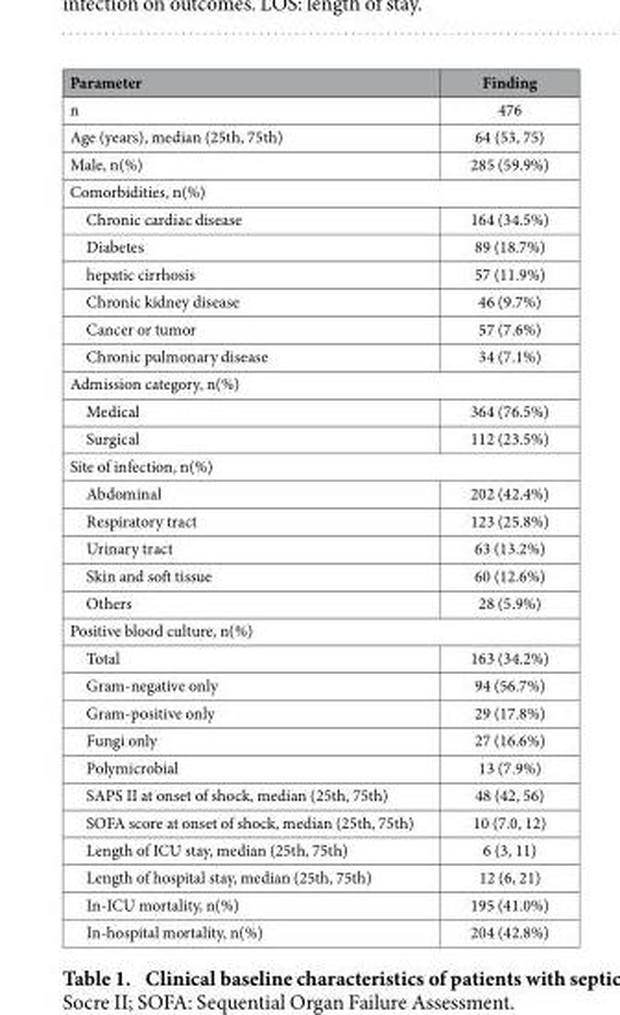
<table><thead><tr><td>Parameter</td><td>Finding</td></tr></thead><tbody><tr><td>n</td><td>476</td></tr><tr><td>Age (years), median (25th, 75th)</td><td>64 (53, 75)</td></tr><tr><td>Male, n(%)</td><td>285 (59.9%)</td></tr><tr><td colspan="2">Comorbidities, n(%)</td></tr><tr><td>Chronic cardiac disease</td><td>164 (34.5%)</td></tr><tr><td>Diabetes</td><td>89 (18.7%)</td></tr><tr><td>hepatic cirrhosis</td><td>57 (11.9%)</td></tr><tr><td>Chronic kidney disease</td><td>46 (9.7%)</td></tr><tr><td>Cancer or tumor</td><td>57 (7.6%)</td></tr><tr><td>Chronic pulmonary disease</td><td>34 (7.1%)</td></tr><tr><td colspan="2">Admission category, n(%)</td></tr><tr><td>Medical</td><td>364 (76.5%)</td></tr><tr><td>Surgical</td><td>112 (23.5%)</td></tr><tr><td colspan="2">Site of infection, n(%)</td></tr><tr><td>Abdominal</td><td>202 (42.4%)</td></tr><tr><td>Respiratory tract</td><td>123 (25.8%)</td></tr><tr><td>Urinary tract</td><td>63 (13.2%)</td></tr><tr><td>Skin and soft tissue</td><td>60 (12.6%)</td></tr><tr><td>Others</td><td>28 (5.9%)</td></tr><tr><td colspan="2">Positive blood culture, n(%)</td></tr><tr><td>Total</td><td>163 (34.2%)</td></tr><tr><td>Gram-negative only</td><td>94 (56.7%)</td></tr><tr><td>Gram-positive only</td><td>29 (17.8%)</td></tr><tr><td>Fungi only</td><td>27 (16.6%)</td></tr><tr><td>Polymicrobial</td><td>13 (7.9%)</td></tr><tr><td>SAPS II at onset of shock, median (25th, 75th)</td><td>48 (42, 56)</td></tr><tr><td>SOFA score at onset of shock, median (25th, 75th)</td><td>10 (7.0, 12)</td></tr><tr><td>Length of ICU stay, median (25th, 75th)</td><td>6 (3, 11)</td></tr><tr><td>Length of hospital stay, median (25th, 75th)</td><td>12 (6, 21)</td></tr><tr><td>In-ICU mortality, n(%)</td><td>195 (41.0%)</td></tr><tr><td>In-hospital mortality, n(%)</td><td>204 (42.8%)</td></tr></tbody></table>